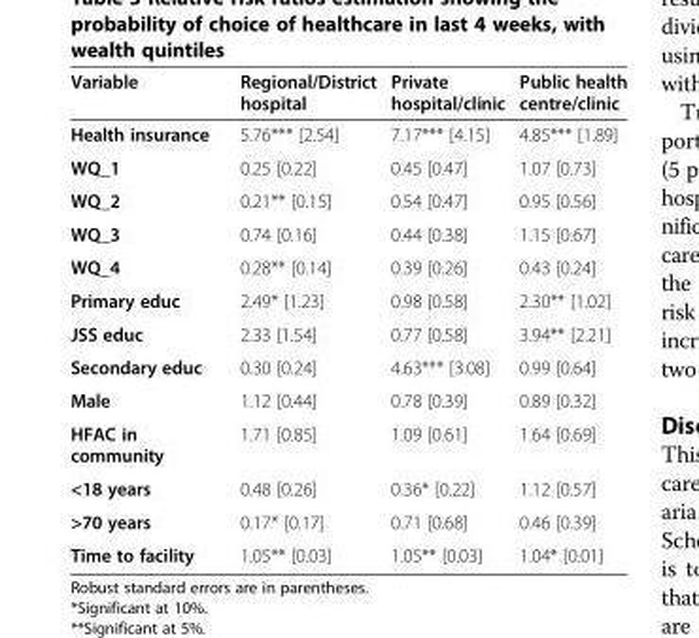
<table><thead><tr><td>Variable</td><td>Regional/District hospital</td><td>Private hospital/clinic</td><td>Public health centre/clinic</td></tr></thead><tbody><tr><td>Health insurance</td><td>5.76*** [2.54]</td><td>7.17*** [4.15]</td><td>4.85*** [1.89]</td></tr><tr><td>WQ_1</td><td>0.25 [0.22]</td><td>0.45 [0.47]</td><td>1.07 [0.73]</td></tr><tr><td>WQ_2</td><td>0.21** [0.15]</td><td>0.54 [0.47]</td><td>0.95 [0.56]</td></tr><tr><td>WQ_3</td><td>0.74 [0.16]</td><td>0.44 [0.38]</td><td>1.15 [0.67]</td></tr><tr><td>WQ_4</td><td>0.28** [0.14]</td><td>0.39 [0.26]</td><td>0.43 [0.24]</td></tr><tr><td>Primary educ</td><td>2.49* [1.23]</td><td>0.98 [0.58]</td><td>2.30** [1.02]</td></tr><tr><td>JSS educ</td><td>2.33 [1.54]</td><td>0.77 [0.58]</td><td>3.94** [2.21]</td></tr><tr><td>Secondary educ</td><td>0.30 [0.24]</td><td>4.63*** [3.08]</td><td>0.99 [0.64]</td></tr><tr><td>Male</td><td>1.12 [0.44]</td><td>0.78 [0.39]</td><td>0.89 [0.32]</td></tr><tr><td>HFAC in community</td><td>1.71 [0.85]</td><td>1.09 [0.61]</td><td>1.64 [0.69]</td></tr><tr><td>&lt;18 years</td><td>0.48 [0.26]</td><td>0.36* [0.22]</td><td>1.12 [0.57]</td></tr><tr><td>&gt;70 years</td><td>0.17* [0.17]</td><td>0.71 [0.68]</td><td>0.46 [0.39]</td></tr><tr><td>Time to facility</td><td>1.05** [0.03]</td><td>1.05** [0.03]</td><td>1.04* [0.01]</td></tr></tbody></table>